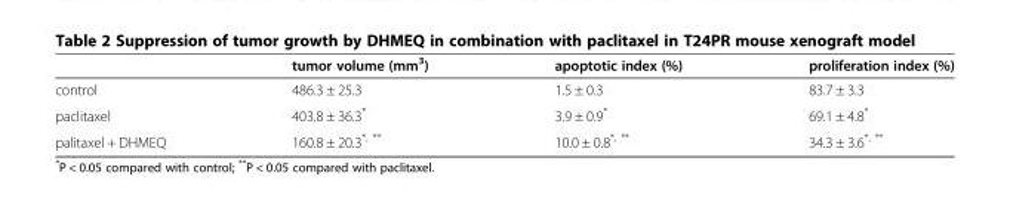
<table><thead><tr><td></td><td>tumor volume (mm<sup>3</sup>)</td><td>apoptotic index (%)</td><td>proliferation index (%)</td></tr></thead><tbody><tr><td>control</td><td>486.3 ± 25.3</td><td>1.5 ± 0.3</td><td>83.7 ± 3.3</td></tr><tr><td>paclitaxel</td><td>403.8 ± 36.3*</td><td>3.9 ± 0.9*</td><td>69.1 ± 4.8*</td></tr><tr><td>palitaxel + DHMEQ</td><td>160.8 ± 20.3<sup>*, **</sup></td><td>10.0 ± 0.8<sup>*, **</sup></td><td>34.3 ± 3.6<sup>*, **</sup></td></tr></tbody></table>